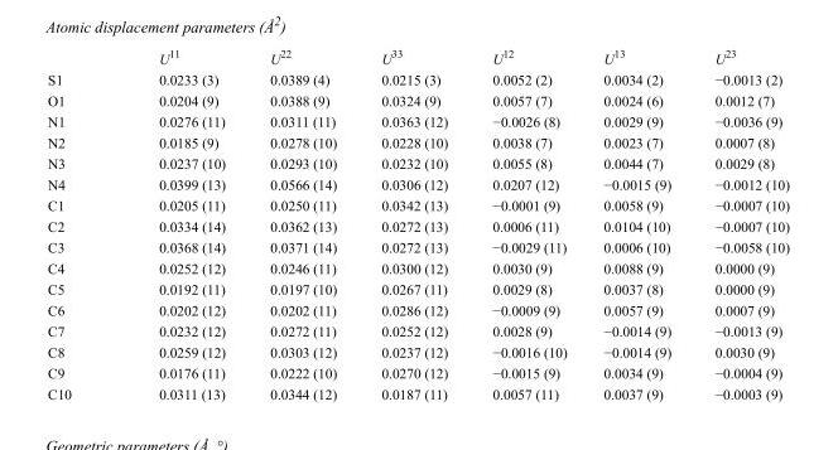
<table><thead><tr><td></td><td>U<sup>11</sup></td><td>U<sup>22</sup></td><td>U<sup>33</sup></td><td>U<sup>12</sup></td><td>U<sup>13</sup></td><td>U<sup>23</sup></td></tr></thead><tbody><tr><td>S1</td><td>0.0233 (3)</td><td>0.0389 (4)</td><td>0.0215 (3)</td><td>0.0052 (2)</td><td>0.0034 (2)</td><td>−0.0013 (2)</td></tr><tr><td>O1</td><td>0.0204 (9)</td><td>0.0388 (9)</td><td>0.0324 (9)</td><td>0.0057 (7)</td><td>0.0024 (6)</td><td>0.0012 (7)</td></tr><tr><td>N1</td><td>0.0276 (11)</td><td>0.0311 (11)</td><td>0.0363 (12)</td><td>−0.0026 (8)</td><td>0.0029 (9)</td><td>−0.0036 (9)</td></tr><tr><td>N2</td><td>0.0185 (9)</td><td>0.0278 (10)</td><td>0.0228 (10)</td><td>0.0038 (7)</td><td>0.0023 (7)</td><td>0.0007 (8)</td></tr><tr><td>N3</td><td>0.0237 (10)</td><td>0.0293 (10)</td><td>0.0232 (10)</td><td>0.0055 (8)</td><td>0.0044 (7)</td><td>0.0029 (8)</td></tr><tr><td>N4</td><td>0.0399 (13)</td><td>0.0566 (14)</td><td>0.0306 (12)</td><td>0.0207 (12)</td><td>−0.0015 (9)</td><td>−0.0012 (10)</td></tr><tr><td>C1</td><td>0.0205 (11)</td><td>0.0250 (11)</td><td>0.0342 (13)</td><td>−0.0001 (9)</td><td>0.0058 (9)</td><td>−0.0007 (10)</td></tr><tr><td>C2</td><td>0.0334 (14)</td><td>0.0362 (13)</td><td>0.0272 (13)</td><td>0.0006 (11)</td><td>0.0104 (10)</td><td>−0.0007 (10)</td></tr><tr><td>C3</td><td>0.0368 (14)</td><td>0.0371 (14)</td><td>0.0272 (13)</td><td>−0.0029 (11)</td><td>0.0006 (10)</td><td>−0.0058 (10)</td></tr><tr><td>C4</td><td>0.0252 (12)</td><td>0.0246 (11)</td><td>0.0300 (12)</td><td>0.0030 (9)</td><td>0.0088 (9)</td><td>0.0000 (9)</td></tr><tr><td>C5</td><td>0.0192 (11)</td><td>0.0197 (10)</td><td>0.0267 (11)</td><td>0.0029 (8)</td><td>0.0037 (8)</td><td>0.0000 (9)</td></tr><tr><td>C6</td><td>0.0202 (12)</td><td>0.0202 (11)</td><td>0.0286 (12)</td><td>−0.0009 (9)</td><td>0.0057 (9)</td><td>0.0007 (9)</td></tr><tr><td>C7</td><td>0.0232 (12)</td><td>0.0272 (11)</td><td>0.0252 (12)</td><td>0.0028 (9)</td><td>−0.0014 (9)</td><td>−0.0013 (9)</td></tr><tr><td>C8</td><td>0.0259 (12)</td><td>0.0303 (12)</td><td>0.0237 (12)</td><td>−0.0016 (10)</td><td>−0.0014 (9)</td><td>0.0030 (9)</td></tr><tr><td>C9</td><td>0.0176 (11)</td><td>0.0222 (10)</td><td>0.0270 (12)</td><td>−0.0015 (9)</td><td>0.0034 (9)</td><td>−0.0004 (9)</td></tr><tr><td>C10</td><td>0.0311 (13)</td><td>0.0344 (12)</td><td>0.0187 (11)</td><td>0.0057 (11)</td><td>0.0037 (9)</td><td>−0.0003 (9)</td></tr></tbody></table>